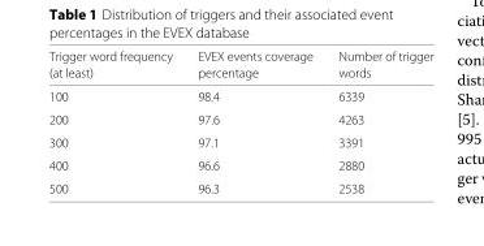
<table><thead><tr><td rowspan="2">Trigger word frequency (at least)</td><td rowspan="2">EVEX events coverage percentage</td><td rowspan="2">Number of trigger words</td></tr><tr></tr></thead><tbody><tr><td>100</td><td>98.4</td><td>6339</td></tr><tr><td>200</td><td>97.6</td><td>4263</td></tr><tr><td>300</td><td>97.1</td><td>3391</td></tr><tr><td>400</td><td>96.6</td><td>2880</td></tr><tr><td>500</td><td>96.3</td><td>2538</td></tr></tbody></table>